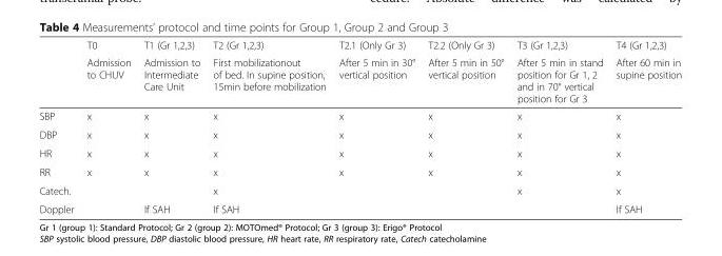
<table><thead><tr><td rowspan="2"></td><td rowspan="2">T0 Admission to CHUV</td><td rowspan="2">T1 (Gr 1,2,3) Admission to Intermediate Care Unit</td><td rowspan="2">T2 (Gr 1,2,3) First mobilizationout of bed. In supine position, 15min before mobilization</td><td rowspan="2">T2.1 (Only Gr 3) After 5 min in 30° vertical position</td><td rowspan="2">T2.2 (Only Gr 3) After 5 min in 50° vertical position</td><td rowspan="2">T3 (Gr 1,2,3) After 5 min in stand position for Gr 1, 2 and in 70° vertical position for Gr 3</td><td rowspan="2">T4 (Gr 1,2,3) After 60 min in supine position</td></tr><tr></tr></thead><tbody><tr><td>SBP</td><td>x</td><td>x</td><td>x</td><td>x</td><td>x</td><td>x</td><td>x</td></tr><tr><td>DBP</td><td>x</td><td>x</td><td>x</td><td>x</td><td>x</td><td>x</td><td>x</td></tr><tr><td>HR</td><td>x</td><td>x</td><td>x</td><td>x</td><td>x</td><td>x</td><td>x</td></tr><tr><td>RR</td><td>x</td><td>x</td><td>x</td><td>x</td><td>x</td><td>x</td><td>x</td></tr><tr><td>Catech.</td><td></td><td></td><td>x</td><td></td><td></td><td>x</td><td>x</td></tr><tr><td>Doppler</td><td></td><td>If SAH</td><td>If SAH</td><td></td><td></td><td></td><td>If SAH</td></tr></tbody></table>